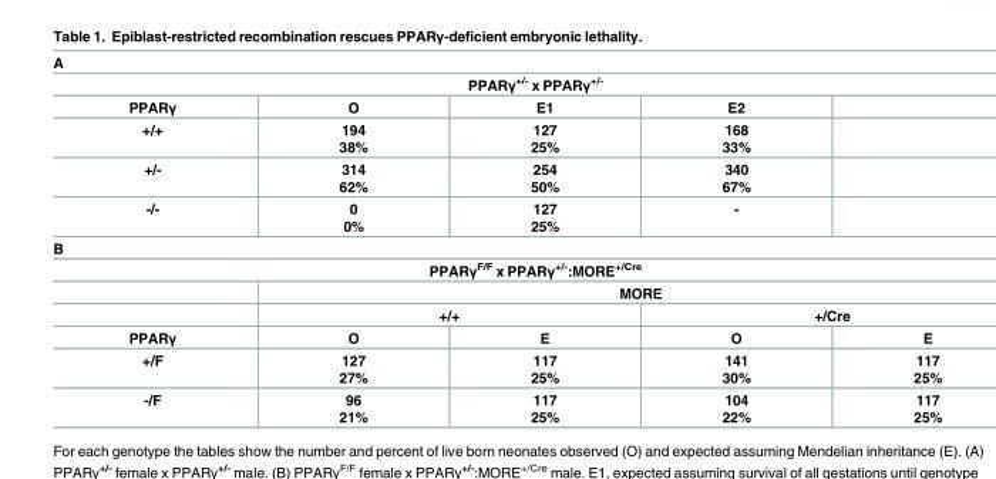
<table><tbody><tr><td colspan="5">A</td></tr><tr><td colspan="5">PPARγ<sup>+/-</sup> x PPARγ<sup>+/-</sup></td></tr><tr><td>PPARγ</td><td>O</td><td>E1</td><td>E2</td><td></td></tr><tr><td>+/+</td><td>194 38%</td><td>127 25%</td><td>168 33%</td><td></td></tr><tr><td>+/-</td><td>314 62%</td><td>254 50%</td><td>340 67%</td><td></td></tr><tr><td>-/-</td><td>0 0%</td><td>127 25%</td><td>-</td><td></td></tr><tr><td colspan="5">B</td></tr><tr><td colspan="5">PPARγ<sup>F/F</sup> x PPARγ<sup>+/-</sup>:MORE<sup>+/Cre</sup></td></tr><tr><td></td><td colspan="4">MORE</td></tr><tr><td></td><td colspan="2">+/+</td><td colspan="2">+/Cre</td></tr><tr><td>PPARγ</td><td>O</td><td>E</td><td>O</td><td>E</td></tr><tr><td>+/F</td><td>127 27%</td><td>117 25%</td><td>141 30%</td><td>117 25%</td></tr><tr><td>-/F</td><td>96 21%</td><td>117 25%</td><td>104 22%</td><td>117 25%</td></tr></tbody></table>